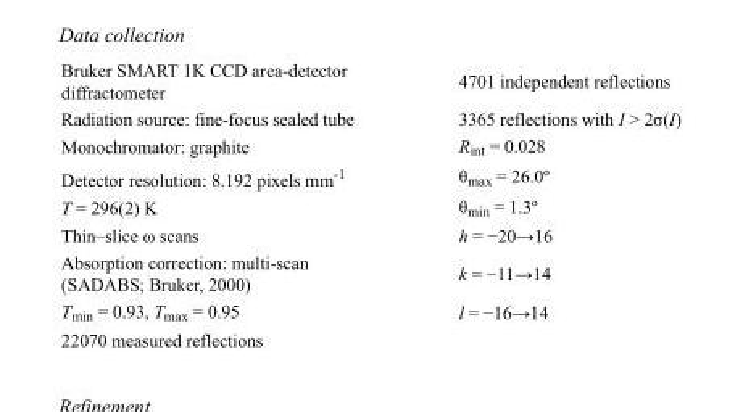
<table><tbody><tr><td>Bruker SMART 1K CCD area-detector diffractometer</td><td>4701 independent reflections</td></tr><tr><td>Radiation source: fine-focus sealed tube</td><td>3365 reflections with I &gt; 2σ(I)</td></tr><tr><td>Monochromator: graphite</td><td>R<sub>int</sub> = 0.028</td></tr><tr><td>Detector resolution: 8.192 pixels mm<sup>-1</sup></td><td>θ<sub>max</sub> = 26.0º</td></tr><tr><td>T = 296(2) K</td><td>θ<sub>min</sub> = 1.3º</td></tr><tr><td>Thin–slice ω scans</td><td>h = −20→16</td></tr><tr><td>Absorption correction: multi-scan (SADABS; Bruker, 2000)</td><td>k = −11→14</td></tr><tr><td>T<sub>min</sub> = 0.93, T<sub>max</sub> = 0.95</td><td>l = −16→14</td></tr><tr><td>22070 measured reflections</td><td></td></tr></tbody></table>